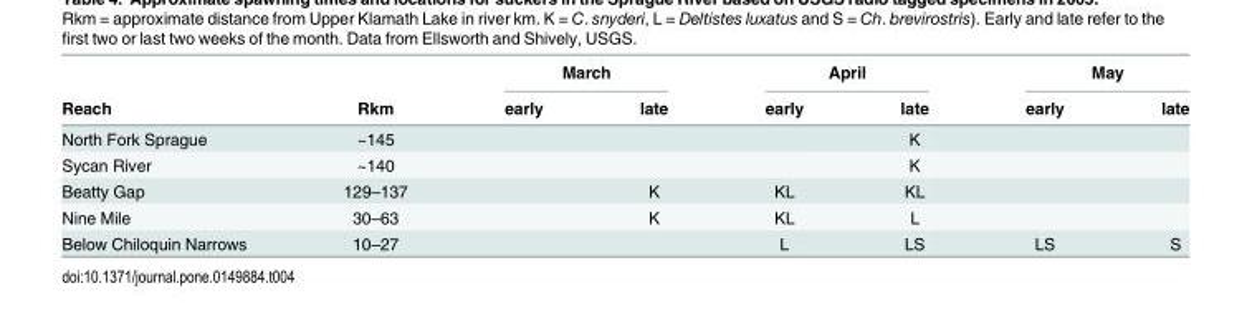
<table><thead><tr><td rowspan="2">Reach</td><td rowspan="2">Rkm</td><td colspan="2">March</td><td colspan="2">April</td><td colspan="2">May</td></tr><tr><td>early</td><td>late</td><td>early</td><td>late</td><td>early</td><td>late</td></tr></thead><tbody><tr><td>North Fork Sprague</td><td>~145</td><td></td><td></td><td></td><td>K</td><td></td><td></td></tr><tr><td>Sycan River</td><td>~140</td><td></td><td></td><td></td><td>K</td><td></td><td></td></tr><tr><td>Beatty Gap</td><td>129–137</td><td></td><td>K</td><td>KL</td><td>KL</td><td></td><td></td></tr><tr><td>Nine Mile</td><td>30–63</td><td></td><td>K</td><td>KL</td><td>L</td><td></td><td></td></tr><tr><td>Below Chiloquin Narrows</td><td>10–27</td><td></td><td></td><td>L</td><td>LS</td><td>LS</td><td>S</td></tr></tbody></table>